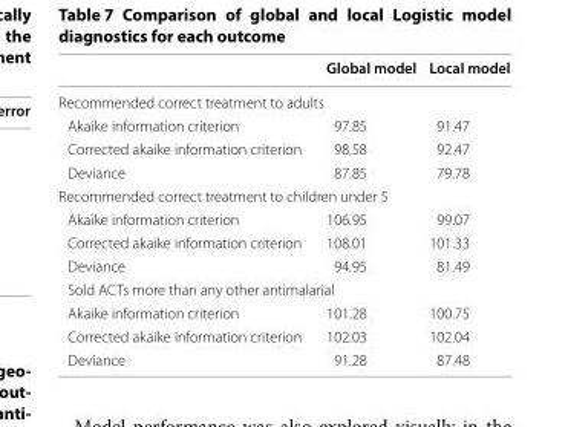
<table><thead><tr><td></td><td>Global model</td><td>Local model</td></tr></thead><tbody><tr><td colspan="3">Recommended correct treatment to adults</td></tr><tr><td>Akaike information criterion</td><td>97.85</td><td>91.47</td></tr><tr><td>Corrected akaike information criterion</td><td>98.58</td><td>92.47</td></tr><tr><td>Deviance</td><td>87.85</td><td>79.78</td></tr><tr><td colspan="3">Recommended correct treatment to children under 5</td></tr><tr><td>Akaike information criterion</td><td>106.95</td><td>99.07</td></tr><tr><td>Corrected akaike information criterion</td><td>108.01</td><td>101.33</td></tr><tr><td>Deviance</td><td>94.95</td><td>81.49</td></tr><tr><td colspan="3">Sold ACTs more than any other antimalarial</td></tr><tr><td>Akaike information criterion</td><td>101.28</td><td>100.75</td></tr><tr><td>Corrected akaike information criterion</td><td>102.03</td><td>102.04</td></tr><tr><td>Deviance</td><td>91.28</td><td>87.48</td></tr></tbody></table>